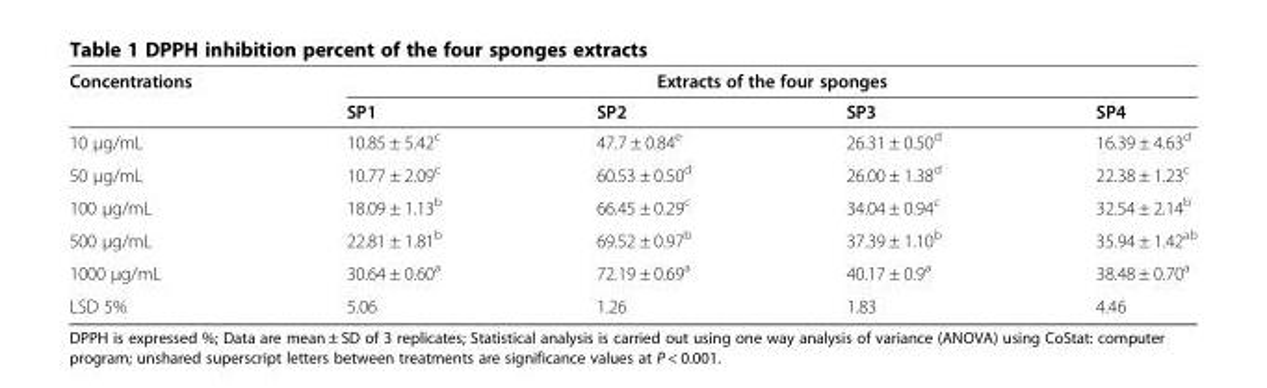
<table><thead><tr><td rowspan="2">Concentrations</td><td colspan="4">Extracts of the four sponges</td></tr><tr><td>SP1</td><td>SP2</td><td>SP3</td><td>SP4</td></tr></thead><tbody><tr><td>10 μg/mL</td><td>10.85 ± 5.42<sup>c</sup></td><td>47.7 ± 0.84<sup>e</sup></td><td>26.31 ± 0.50<sup>d</sup></td><td>16.39 ± 4.63<sup>d</sup></td></tr><tr><td>50 μg/mL</td><td>10.77 ± 2.09<sup>c</sup></td><td>60.53 ± 0.50<sup>d</sup></td><td>26.00 ± 1.38<sup>d</sup></td><td>22.38 ± 1.23<sup>c</sup></td></tr><tr><td>100 μg/mL</td><td>18.09 ± 1.13<sup>b</sup></td><td>66.45 ± 0.29<sup>c</sup></td><td>34.04 ± 0.94<sup>c</sup></td><td>32.54 ± 2.14<sup>b</sup></td></tr><tr><td>500 μg/mL</td><td>22.81 ± 1.81<sup>b</sup></td><td>69.52 ± 0.97<sup>b</sup></td><td>37.39 ± 1.10<sup>b</sup></td><td>35.94 ± 1.42<sup>ab</sup></td></tr><tr><td>1000 μg/mL</td><td>30.64 ± 0.60<sup>a</sup></td><td>72.19 ± 0.69<sup>a</sup></td><td>40.17 ± 0.9<sup>a</sup></td><td>38.48 ± 0.70<sup>a</sup></td></tr><tr><td>LSD 5%</td><td>5.06</td><td>1.26</td><td>1.83</td><td>4.46</td></tr></tbody></table>